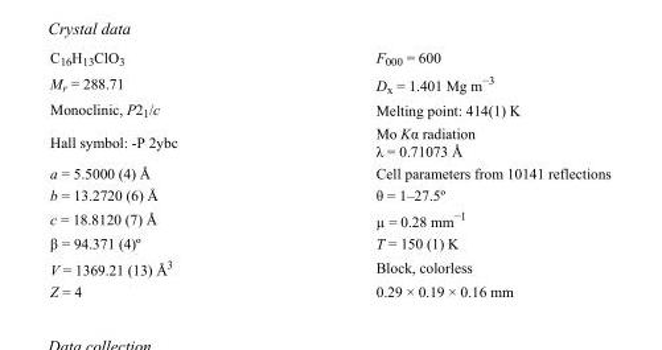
<table><tbody><tr><td>C<sub>16</sub>H<sub>13</sub>ClO<sub>3</sub></td><td>F000 = 600</td></tr><tr><td>M<sub>r</sub> = 288.71</td><td>D<sub>x</sub> = 1.401 Mg m<sup>−3</sup></td></tr><tr><td>Monoclinic, P2<sub>1</sub>/c</td><td>Melting point: 414(1) K</td></tr><tr><td>Hall symbol: -P 2ybc</td><td>Mo Kα radiation λ = 0.71073 Å</td></tr><tr><td>a = 5.5000 (4) Å</td><td>Cell parameters from 10141 reflections</td></tr><tr><td>b = 13.2720 (6) Å</td><td>θ = 1–27.5º</td></tr><tr><td>c = 18.8120 (7) Å</td><td>µ = 0.28 mm<sup>−1</sup></td></tr><tr><td>β = 94.371 (4)º</td><td>T = 150 (1) K</td></tr><tr><td>V = 1369.21 (13) Å<sup>3</sup></td><td>Block, colorless</td></tr><tr><td>Z = 4</td><td>0.29 × 0.19 × 0.16 mm</td></tr></tbody></table>